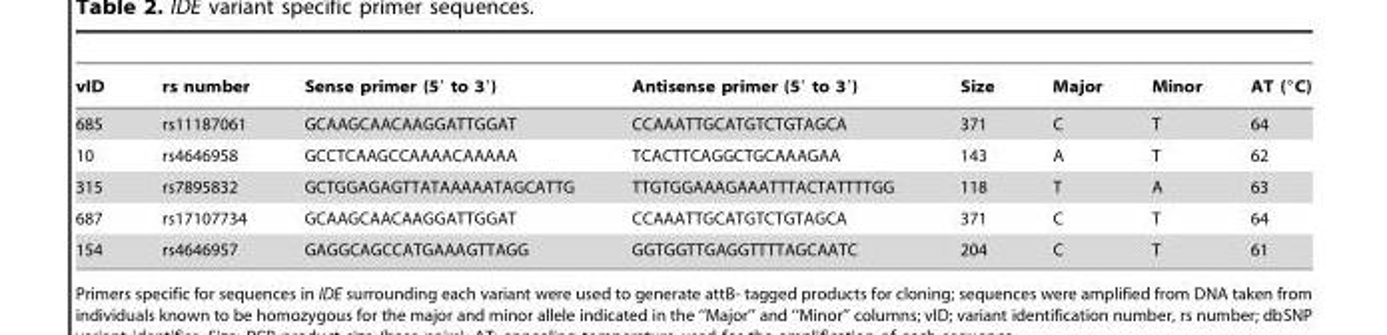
<table><thead><tr><td>vID</td><td>rs number</td><td>Sense primer (5′ to 3′)</td><td>Antisense primer (5′ to 3′)</td><td>Size</td><td>Major</td><td>Minor</td><td>AT (°C)</td></tr></thead><tbody><tr><td>685</td><td>rs11187061</td><td>GCAAGCAACAAGGATTGGAT</td><td>CCAAATTGCATGTCTGTAGCA</td><td>371</td><td>C</td><td>T</td><td>64</td></tr><tr><td>10</td><td>rs4646958</td><td>GCCTCAAGCCAAAACAAAAA</td><td>TCACTTCAGGCTGCAAAGAA</td><td>143</td><td>A</td><td>T</td><td>62</td></tr><tr><td>315</td><td>rs7895832</td><td>GCTGGAGAGTTATAAAAATAGCATTG</td><td>TTGTGGAAAGAAATTTACTATTTTGG</td><td>118</td><td>T</td><td>A</td><td>63</td></tr><tr><td>687</td><td>rs17107734</td><td>GCAAGCAACAAGGATTGGAT</td><td>CCAAATTGCATGTCTGTAGCA</td><td>371</td><td>C</td><td>T</td><td>64</td></tr><tr><td>154</td><td>rs4646957</td><td>GAGGCAGCCATGAAAGTTAGG</td><td>GGTGGTTGAGGTTTTAGCAATC</td><td>204</td><td>C</td><td>T</td><td>61</td></tr></tbody></table>